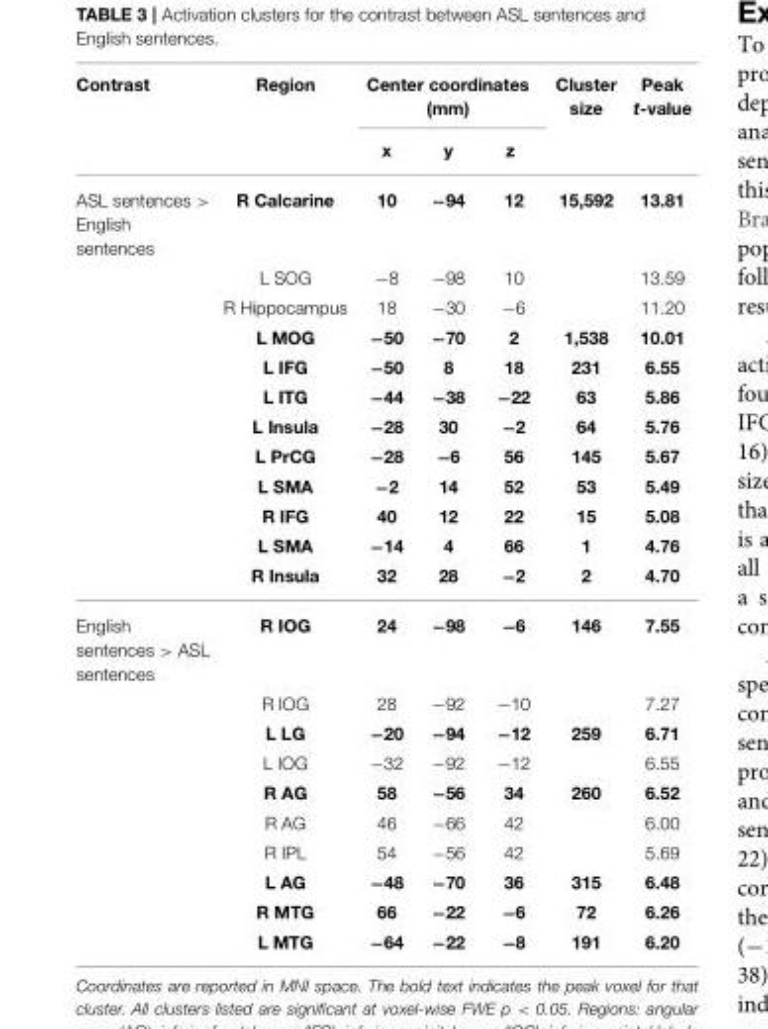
<table><thead><tr><td rowspan="2">Contrast</td><td rowspan="2">Region</td><td colspan="3">Center coordinates (mm)</td><td rowspan="2">Cluster size</td><td rowspan="2">Peak t-value</td></tr><tr><td>x</td><td>y</td><td>z</td></tr></thead><tbody><tr><td rowspan="12">ASL sentences &gt; English sentences</td><td>R Calcarine</td><td>10</td><td>−94</td><td>12</td><td>15,592</td><td>13.81</td></tr><tr><td>L SOG</td><td>−8</td><td>−98</td><td>10</td><td></td><td>13.59</td></tr><tr><td>R Hippocampus</td><td>18</td><td>−30</td><td>−6</td><td></td><td>11.20</td></tr><tr><td>L MOG</td><td>−50</td><td>−70</td><td>2</td><td>1,538</td><td>10.01</td></tr><tr><td>L IFG</td><td>−50</td><td>8</td><td>18</td><td>231</td><td>6.55</td></tr><tr><td>L ITG</td><td>−44</td><td>−38</td><td>−22</td><td>63</td><td>5.86</td></tr><tr><td>L Insula</td><td>−28</td><td>30</td><td>−2</td><td>64</td><td>5.76</td></tr><tr><td>L PrCG</td><td>−28</td><td>−6</td><td>56</td><td>145</td><td>5.67</td></tr><tr><td>L SMA</td><td>−2</td><td>14</td><td>52</td><td>53</td><td>5.49</td></tr><tr><td>R IFG</td><td>40</td><td>12</td><td>22</td><td>15</td><td>5.08</td></tr><tr><td>L SMA</td><td>−14</td><td>4</td><td>66</td><td>1</td><td>4.76</td></tr><tr><td>R Insula</td><td>32</td><td>28</td><td>−2</td><td>2</td><td>4.70</td></tr><tr><td rowspan="10">English sentences &gt; ASL sentences</td><td>R IOG</td><td>24</td><td>−98</td><td>−6</td><td>146</td><td>7.55</td></tr><tr><td>R IOG</td><td>28</td><td>−92</td><td>−10</td><td></td><td>7.27</td></tr><tr><td>L LG</td><td>−20</td><td>−94</td><td>−12</td><td>259</td><td>6.71</td></tr><tr><td>L IOG</td><td>−32</td><td>−92</td><td>−12</td><td></td><td>6.55</td></tr><tr><td>R AG</td><td>58</td><td>−56</td><td>34</td><td>260</td><td>6.52</td></tr><tr><td>R AG</td><td>46</td><td>−66</td><td>42</td><td></td><td>6.00</td></tr><tr><td>R IPL</td><td>54</td><td>−56</td><td>42</td><td></td><td>5.69</td></tr><tr><td>L AG</td><td>−48</td><td>−70</td><td>36</td><td>315</td><td>6.48</td></tr><tr><td>R MTG</td><td>66</td><td>−22</td><td>−6</td><td>72</td><td>6.26</td></tr><tr><td>L MTG</td><td>−64</td><td>−22</td><td>−8</td><td>191</td><td>6.20</td></tr></tbody></table>